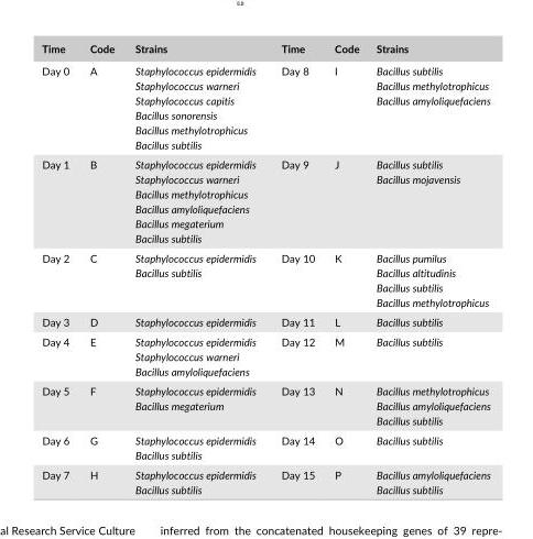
<table><thead><tr><td>Time</td><td>Code</td><td>Strains</td><td>Time</td><td>Code</td><td>Strains</td></tr></thead><tbody><tr><td>Day 0</td><td>A</td><td>Staphylococcus epidermidis Staphylococcus warneri Staphylococcus capitis Bacillus sonorensis Bacillus methylotrophicus Bacillus subtilis</td><td>Day 8</td><td>I</td><td>Bacillus subtilis Bacillus methylotrophicus Bacillus amyloliquefaciens</td></tr><tr><td>Day 1</td><td>B</td><td>Staphylococcus epidermidis Staphylococcus warneri Bacillus methylotrophicus Bacillus amyloliquefaciens Bacillus megaterium Bacillus subtilis</td><td>Day 9</td><td>J</td><td>Bacillus subtilis Bacillus mojavensis</td></tr><tr><td>Day 2</td><td>C</td><td>Staphylococcus epidermidis Bacillus subtilis</td><td>Day 10</td><td>K</td><td>Bacillus pumilus Bacillus altitudinis Bacillus subtilis Bacillus methylotrophicus</td></tr><tr><td>Day 3</td><td>D</td><td>Staphylococcus epidermidis</td><td>Day 11</td><td>L</td><td>Bacillus subtilis</td></tr><tr><td>Day 4</td><td>E</td><td>Staphylococcus epidermidis Staphylococcus warneri Bacillus amyloliquefaciens</td><td>Day 12</td><td>M</td><td>Bacillus subtilis</td></tr><tr><td>Day 5</td><td>F</td><td>Staphylococcus epidermidis Bacillus megaterium</td><td>Day 13</td><td>N</td><td>Bacillus methylotrophicus Bacillus amyloliquefaciens Bacillus subtilis</td></tr><tr><td>Day 6</td><td>G</td><td>Staphylococcus epidermidis Bacillus subtilis</td><td>Day 14</td><td>O</td><td>Bacillus subtilis</td></tr><tr><td>Day 7</td><td>H</td><td>Staphylococcus epidermidis Bacillus subtilis</td><td>Day 15</td><td>P</td><td>Bacillus amyloliquefaciens Bacillus subtilis</td></tr></tbody></table>